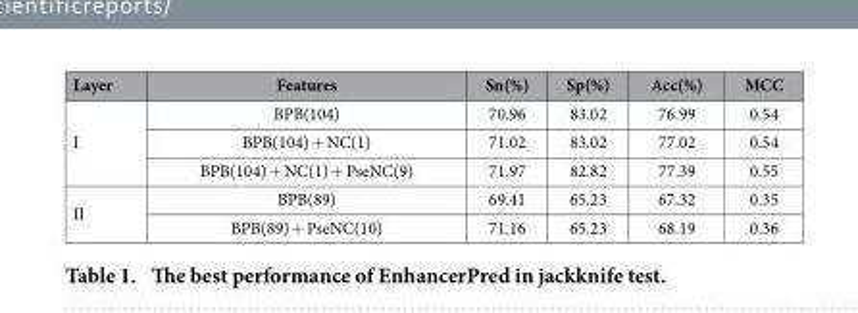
<table><thead><tr><td>Layer</td><td>Features</td><td>Sn(%)</td><td>Sp(%)</td><td>Acc(%)</td><td>MCC</td></tr></thead><tbody><tr><td rowspan="3">I</td><td>BPB(104)</td><td>70.96</td><td>83.02</td><td>76.99</td><td>0.54</td></tr><tr><td>BPB(104) + NC(1)</td><td>71.02</td><td>83.02</td><td>77.02</td><td>0.54</td></tr><tr><td>BPB(104) + NC(1) + PseNC(9)</td><td>71.97</td><td>82.82</td><td>77.39</td><td>0.55</td></tr><tr><td rowspan="2">II</td><td>BPB(89)</td><td>69.41</td><td>65.23</td><td>67.32</td><td>0.35</td></tr><tr><td>BPB(89) + PseNC(10)</td><td>71.16</td><td>65.23</td><td>68.19</td><td>0.36</td></tr></tbody></table>